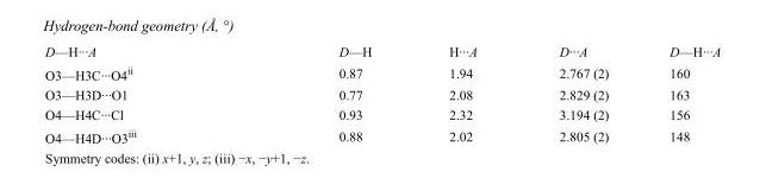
<table><tbody><tr><td>D—H···A</td><td>D—H</td><td>H···A</td><td>D···A</td><td>D—H···A</td></tr><tr><td>O3—H3C···O4<sup>ii</sup></td><td>0.87</td><td>1.94</td><td>2.767 (2)</td><td>160</td></tr><tr><td>O3—H3D···O1</td><td>0.77</td><td>2.08</td><td>2.829 (2)</td><td>163</td></tr><tr><td>O4—H4C···Cl</td><td>0.93</td><td>2.32</td><td>3.194 (2)</td><td>156</td></tr><tr><td>O4—H4D···O3<sup>iii</sup></td><td>0.88</td><td>2.02</td><td>2.805 (2)</td><td>148</td></tr></tbody></table>